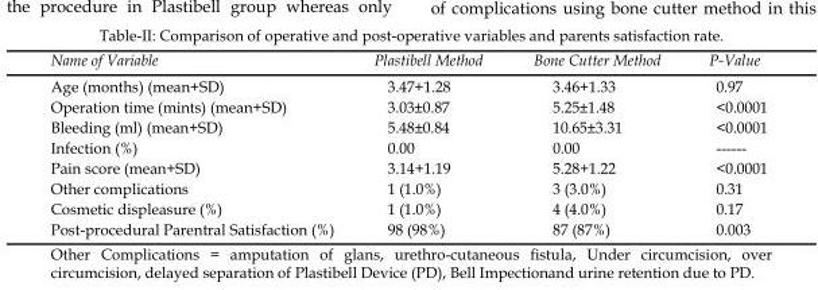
<table><thead><tr><td>Name of Variable</td><td>Plastibell Method</td><td>Bone Cutter Method</td><td>P-Value</td></tr></thead><tbody><tr><td>Age (months) (mean+SD)</td><td>3.47+1.28</td><td>3.46+1.33</td><td>0.97</td></tr><tr><td>Operation time (mints) (mean+SD)</td><td>3.03±0.87</td><td>5.25±1.48</td><td>&lt;0.0001</td></tr><tr><td>Bleeding (ml) (mean+SD)</td><td>5.48±0.84</td><td>10.65±3.31</td><td>&lt;0.0001</td></tr><tr><td>Infection (%)</td><td>0.00</td><td>0.00</td><td>------</td></tr><tr><td>Pain score (mean+SD)</td><td>3.14+1.19</td><td>5.28+1.22</td><td>&lt;0.0001</td></tr><tr><td>Other complications</td><td>1 (1.0%)</td><td>3 (3.0%)</td><td>0.31</td></tr><tr><td>Cosmetic displeasure (%)</td><td>1 (1.0%)</td><td>4 (4.0%)</td><td>0.17</td></tr><tr><td>Post-procedural Parentral Satisfaction (%)</td><td>98 (98%)</td><td>87 (87%)</td><td>0.003</td></tr></tbody></table>